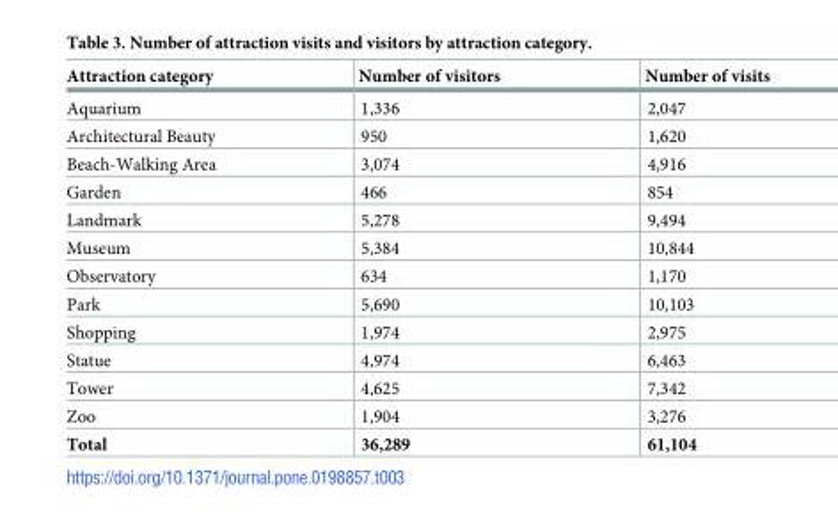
<table><thead><tr><td>Attraction category</td><td>Number of visitors</td><td>Number of visits</td></tr></thead><tbody><tr><td>Aquarium</td><td>1,336</td><td>2,047</td></tr><tr><td>Architectural Beauty</td><td>950</td><td>1,620</td></tr><tr><td>Beach-Walking Area</td><td>3,074</td><td>4,916</td></tr><tr><td>Garden</td><td>466</td><td>854</td></tr><tr><td>Landmark</td><td>5,278</td><td>9,494</td></tr><tr><td>Museum</td><td>5,384</td><td>10,844</td></tr><tr><td>Observatory</td><td>634</td><td>1,170</td></tr><tr><td>Park</td><td>5,690</td><td>10,103</td></tr><tr><td>Shopping</td><td>1,974</td><td>2,975</td></tr><tr><td>Statue</td><td>4,974</td><td>6,463</td></tr><tr><td>Tower</td><td>4,625</td><td>7,342</td></tr><tr><td>Zoo</td><td>1,904</td><td>3,276</td></tr><tr><td>Total</td><td>36,289</td><td>61,104</td></tr></tbody></table>